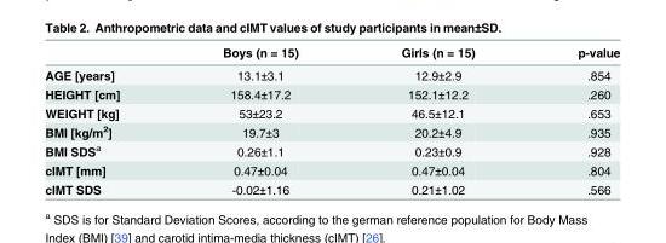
<table><thead><tr><td></td><td>Boys (n = 15)</td><td>Girls (n = 15)</td><td>p-value</td></tr></thead><tbody><tr><td>AGE [years]</td><td>13.1±3.1</td><td>12.9±2.9</td><td>.854</td></tr><tr><td>HEIGHT [cm]</td><td>158.4±17.2</td><td>152.1±12.2</td><td>.260</td></tr><tr><td>WEIGHT [kg]</td><td>53±23.2</td><td>46.5±12.1</td><td>.653</td></tr><tr><td>BMI [kg/m<sup>2</sup>]</td><td>19.7±3</td><td>20.2±4.9</td><td>.935</td></tr><tr><td>BMI SDS<sup>a</sup></td><td>0.26±1.1</td><td>0.23±0.9</td><td>.928</td></tr><tr><td>cIMT [mm]</td><td>0.47±0.04</td><td>0.47±0.04</td><td>.804</td></tr><tr><td>cIMT SDS</td><td>-0.02±1.16</td><td>0.21±1.02</td><td>.566</td></tr></tbody></table>